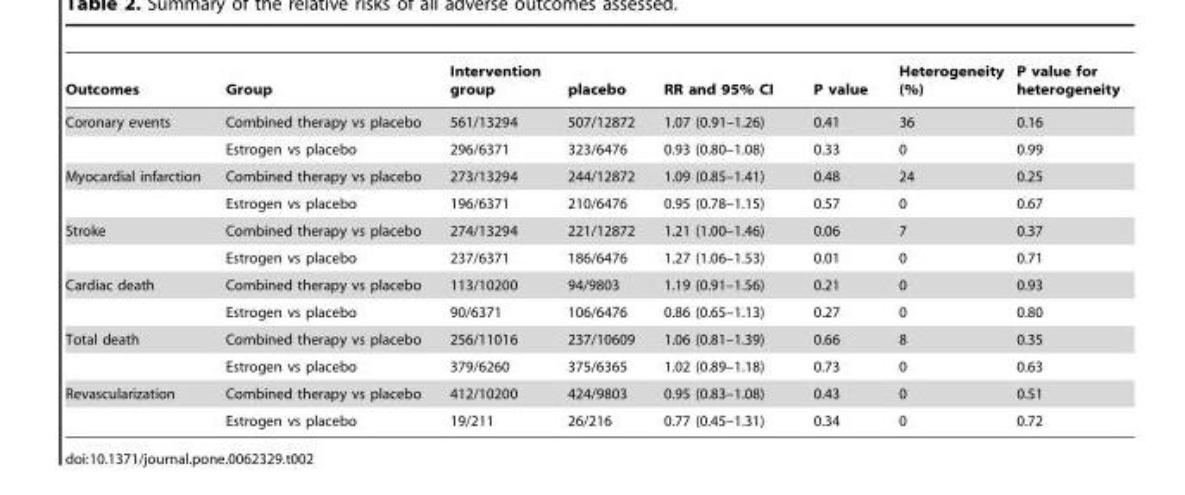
<table><thead><tr><td>Outcomes</td><td>Group</td><td>Intervention group</td><td>placebo</td><td>RR and 95% CI</td><td>P value</td><td>Heterogeneity (%)</td><td>P value for heterogeneity</td></tr></thead><tbody><tr><td rowspan="2">Coronary events</td><td>Combined therapy vs placebo</td><td>561/13294</td><td>507/12872</td><td>1.07 (0.91–1.26)</td><td>0.41</td><td>36</td><td>0.16</td></tr><tr><td>Estrogen vs placebo</td><td>296/6371</td><td>323/6476</td><td>0.93 (0.80–1.08)</td><td>0.33</td><td>0</td><td>0.99</td></tr><tr><td rowspan="2">Myocardial infarction</td><td>Combined therapy vs placebo</td><td>273/13294</td><td>244/12872</td><td>1.09 (0.85–1.41)</td><td>0.48</td><td>24</td><td>0.25</td></tr><tr><td>Estrogen vs placebo</td><td>196/6371</td><td>210/6476</td><td>0.95 (0.78–1.15)</td><td>0.57</td><td>0</td><td>0.67</td></tr><tr><td rowspan="2">Stroke</td><td>Combined therapy vs placebo</td><td>274/13294</td><td>221/12872</td><td>1.21 (1.00–1.46)</td><td>0.06</td><td>7</td><td>0.37</td></tr><tr><td>Estrogen vs placebo</td><td>237/6371</td><td>186/6476</td><td>1.27 (1.06–1.53)</td><td>0.01</td><td>0</td><td>0.71</td></tr><tr><td rowspan="2">Cardiac death</td><td>Combined therapy vs placebo</td><td>113/10200</td><td>94/9803</td><td>1.19 (0.91–1.56)</td><td>0.21</td><td>0</td><td>0.93</td></tr><tr><td>Estrogen vs placebo</td><td>90/6371</td><td>106/6476</td><td>0.86 (0.65–1.13)</td><td>0.27</td><td>0</td><td>0.80</td></tr><tr><td rowspan="2">Total death</td><td>Combined therapy vs placebo</td><td>256/11016</td><td>237/10609</td><td>1.06 (0.81–1.39)</td><td>0.66</td><td>8</td><td>0.35</td></tr><tr><td>Estrogen vs placebo</td><td>379/6260</td><td>375/6365</td><td>1.02 (0.89–1.18)</td><td>0.73</td><td>0</td><td>0.63</td></tr><tr><td rowspan="2">Revascularization</td><td>Combined therapy vs placebo</td><td>412/10200</td><td>424/9803</td><td>0.95 (0.83–1.08)</td><td>0.43</td><td>0</td><td>0.51</td></tr><tr><td>Estrogen vs placebo</td><td>19/211</td><td>26/216</td><td>0.77 (0.45–1.31)</td><td>0.34</td><td>0</td><td>0.72</td></tr></tbody></table>